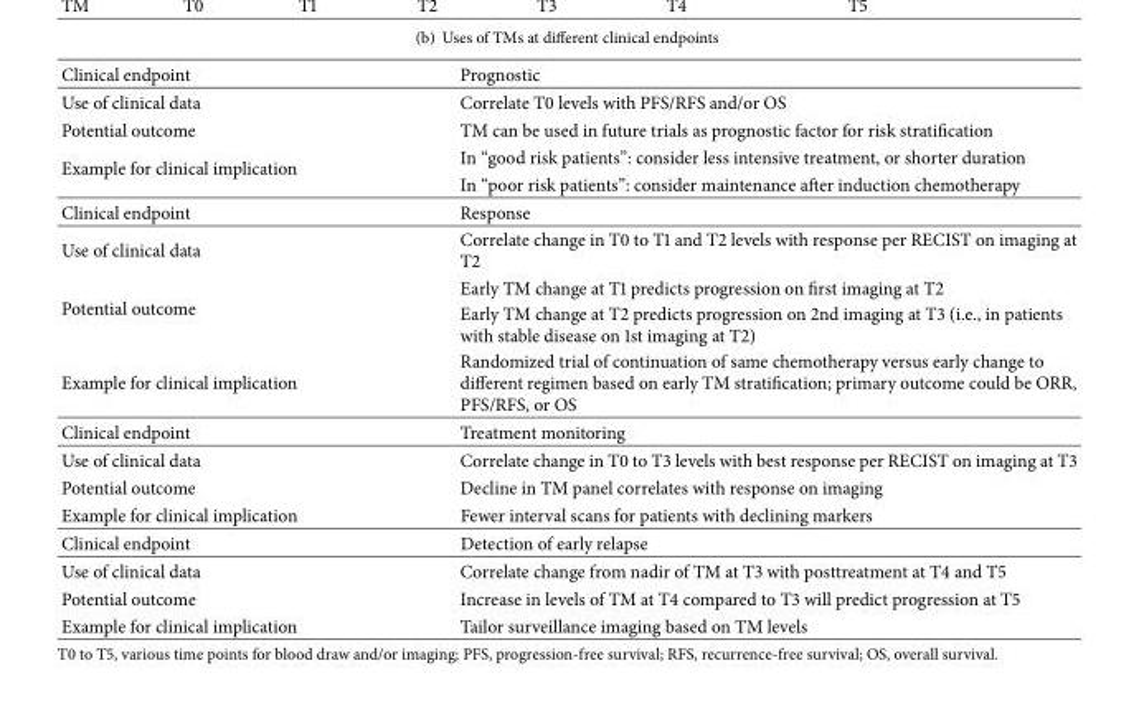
<table><tbody><tr><td>Clinical endpoint</td><td>Prognostic</td></tr><tr><td>Use of clinical data</td><td>Correlate T0 levels with PFS/RFS and/or OS</td></tr><tr><td>Potential outcome</td><td>TM can be used in future trials as prognostic factor for risk stratification</td></tr><tr><td rowspan="2">Example for clinical implication</td><td>In “good risk patients”: consider less intensive treatment, or shorter duration</td></tr><tr><td>In “poor risk patients”: consider maintenance after induction chemotherapy</td></tr><tr><td>Clinical endpoint</td><td>Response</td></tr><tr><td>Use of clinical data</td><td>Correlate change in T0 to T1 and T2 levels with response per RECIST on imaging at T2</td></tr><tr><td rowspan="2">Potential outcome</td><td>Early TM change at T1 predicts progression on first imaging at T2</td></tr><tr><td>Early TM change at T2 predicts progression on 2nd imaging at T3 (i.e., in patients with stable disease on 1st imaging at T2)</td></tr><tr><td>Example for clinical implication</td><td>Randomized trial of continuation of same chemotherapy versus early change to different regimen based on early TM stratification; primary outcome could be ORR, PFS/RFS, or OS</td></tr><tr><td>Clinical endpoint</td><td>Treatment monitoring</td></tr><tr><td>Use of clinical data</td><td>Correlate change in T0 to T3 levels with best response per RECIST on imaging at T3</td></tr><tr><td>Potential outcome</td><td>Decline in TM panel correlates with response on imaging</td></tr><tr><td>Example for clinical implication</td><td>Fewer interval scans for patients with declining markers</td></tr><tr><td>Clinical endpoint</td><td>Detection of early relapse</td></tr><tr><td>Use of clinical data</td><td>Correlate change from nadir of TM at T3 with posttreatment at T4 and T5</td></tr><tr><td>Potential outcome</td><td>Increase in levels of TM at T4 compared to T3 will predict progression at T5</td></tr><tr><td>Example for clinical implication</td><td>Tailor surveillance imaging based on TM levels</td></tr></tbody></table>